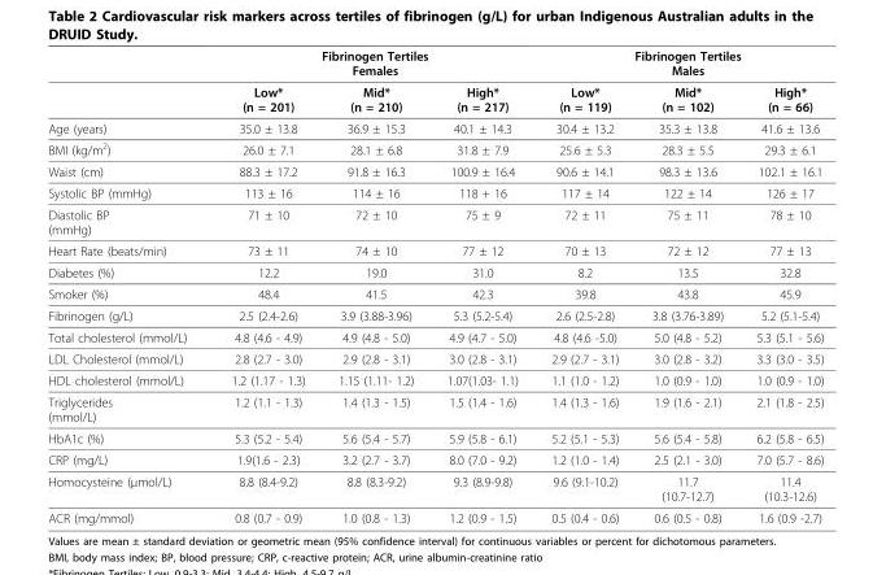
<table><thead><tr><td rowspan="2"></td><td colspan="3">Fibrinogen Tertiles Females</td><td colspan="3">Fibrinogen Tertiles Males</td></tr><tr><td>Low* (n = 201)</td><td>Mid* (n = 210)</td><td>High* (n = 217)</td><td>Low* (n = 119)</td><td>Mid* (n = 102)</td><td>High* (n = 66)</td></tr></thead><tbody><tr><td>Age (years)</td><td>35.0 ± 13.8</td><td>36.9 ± 15.3</td><td>40.1 ± 14.3</td><td>30.4 ± 13.2</td><td>35.3 ± 13.8</td><td>41.6 ± 13.6</td></tr><tr><td>BMI (kg/m<sup>2</sup>)</td><td>26.0 ± 7.1</td><td>28.1 ± 6.8</td><td>31.8 ± 7.9</td><td>25.6 ± 5.3</td><td>28.3 ± 5.5</td><td>29.3 ± 6.1</td></tr><tr><td>Waist (cm)</td><td>88.3 ± 17.2</td><td>91.8 ± 16.3</td><td>100.9 ± 16.4</td><td>90.6 ± 14.1</td><td>98.3 ± 13.6</td><td>102.1 ± 16.1</td></tr><tr><td>Systolic BP (mmHg)</td><td>113 ± 16</td><td>114 ± 16</td><td>118 + 16</td><td>117 ± 14</td><td>122 ± 14</td><td>126 ± 17</td></tr><tr><td>Diastolic BP (mmHg)</td><td>71 ± 10</td><td>72 ± 10</td><td>75 ± 9</td><td>72 ± 11</td><td>75 ± 11</td><td>78 ± 10</td></tr><tr><td>Heart Rate (beats/min)</td><td>73 ± 11</td><td>74 ± 10</td><td>77 ± 12</td><td>70 ± 13</td><td>72 ± 12</td><td>77 ± 13</td></tr><tr><td>Diabetes (%)</td><td>12.2</td><td>19.0</td><td>31.0</td><td>8.2</td><td>13.5</td><td>32.8</td></tr><tr><td>Smoker (%)</td><td>48.4</td><td>41.5</td><td>42.3</td><td>39.8</td><td>43.8</td><td>45.9</td></tr><tr><td>Fibrinogen (g/L)</td><td>2.5 (2.4-2.6)</td><td>3.9 (3.88-3.96)</td><td>5.3 (5.2-5.4)</td><td>2.6 (2.5-2.8)</td><td>3.8 (3.76-3.89)</td><td>5.2 (5.1-5.4)</td></tr><tr><td>Total cholesterol (mmol/L)</td><td>4.8 (4.6 - 4.9)</td><td>4.9 (4.8 - 5.0)</td><td>4.9 (4.7 - 5.0)</td><td>4.8 (4.6 -5.0)</td><td>5.0 (4.8 - 5.2)</td><td>5.3 (5.1 - 5.6)</td></tr><tr><td>LDL Cholesterol (mmol/L)</td><td>2.8 (2.7 - 3.0)</td><td>2.9 (2.8 - 3.1)</td><td>3.0 (2.8 - 3.1)</td><td>2.9 (2.7 - 3.1)</td><td>3.0 (2.8 - 3.2)</td><td>3.3 (3.0 - 3.5)</td></tr><tr><td>HDL cholesterol (mmol/L)</td><td>1.2 (1.17 - 1.3)</td><td>1.15 (1.11- 1.2)</td><td>1.07(1.03- 1.1)</td><td>1.1 (1.0 - 1.2)</td><td>1.0 (0.9 - 1.0)</td><td>1.0 (0.9 - 1.0)</td></tr><tr><td>Triglycerides (mmol/L)</td><td>1.2 (1.1 - 1.3)</td><td>1.4 (1.3 - 1.5)</td><td>1.5 (1.4 - 1.6)</td><td>1.4 (1.3 - 1.6)</td><td>1.9 (1.6 - 2.1)</td><td>2.1 (1.8 - 2.5)</td></tr><tr><td>HbA1c (%)</td><td>5.3 (5.2 - 5.4)</td><td>5.6 (5.4 - 5.7)</td><td>5.9 (5.8 - 6.1)</td><td>5.2 (5.1 - 5.3)</td><td>5.6 (5.4 - 5.8)</td><td>6.2 (5.8 - 6.5)</td></tr><tr><td>CRP (mg/L)</td><td>1.9(1.6 - 2.3)</td><td>3.2 (2.7 - 3.7)</td><td>8.0 (7.0 - 9.2)</td><td>1.2 (1.0 - 1.4)</td><td>2.5 (2.1 - 3.0)</td><td>7.0 (5.7 - 8.6)</td></tr><tr><td>Homocysteine (μmol/L)</td><td>8.8 (8.4-9.2)</td><td>8.8 (8.3-9.2)</td><td>9.3 (8.9-9.8)</td><td>9.6 (9.1-10.2)</td><td>11.7 (10.7-12.7)</td><td>11.4 (10.3-12.6)</td></tr><tr><td>ACR (mg/mmol)</td><td>0.8 (0.7 - 0.9)</td><td>1.0 (0.8 - 1.3)</td><td>1.2 (0.9 - 1.5)</td><td>0.5 (0.4 - 0.6)</td><td>0.6 (0.5 - 0.8)</td><td>1.6 (0.9 -2.7)</td></tr></tbody></table>